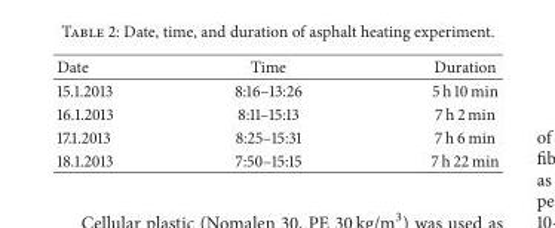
<table><thead><tr><td>Date</td><td>Time</td><td>Duration</td></tr></thead><tbody><tr><td>15.1.2013</td><td>8:16–13:26</td><td>5 h 10 min</td></tr><tr><td>16.1.2013</td><td>8:11–15:13</td><td>7 h 2 min</td></tr><tr><td>17.1.2013</td><td>8:25–15:31</td><td>7 h 6 min</td></tr><tr><td>18.1.2013</td><td>7:50–15:15</td><td>7 h 22 min</td></tr></tbody></table>